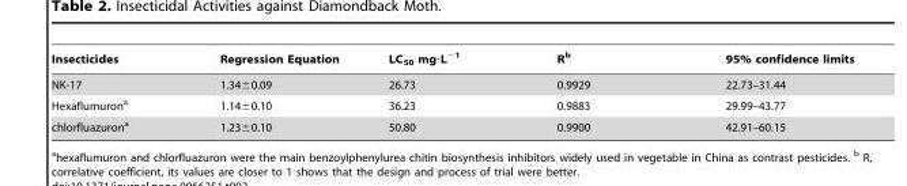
<table><thead><tr><td>Insecticides</td><td>Regression Equation</td><td>LC<sub>50</sub> mg·L<sup>−1</sup></td><td>R<sup>b</sup></td><td>95% confidence limits</td></tr></thead><tbody><tr><td>NK-17</td><td>1.34±0.09</td><td>26.73</td><td>0.9929</td><td>22.73–31.44</td></tr><tr><td>Hexaflumuron<sup>a</sup></td><td>1.14±0.10</td><td>36.23</td><td>0.9883</td><td>29.99–43.77</td></tr><tr><td>chlorfluazuron<sup>a</sup></td><td>1.23±0.10</td><td>50.80</td><td>0.9900</td><td>42.91–60.15</td></tr></tbody></table>